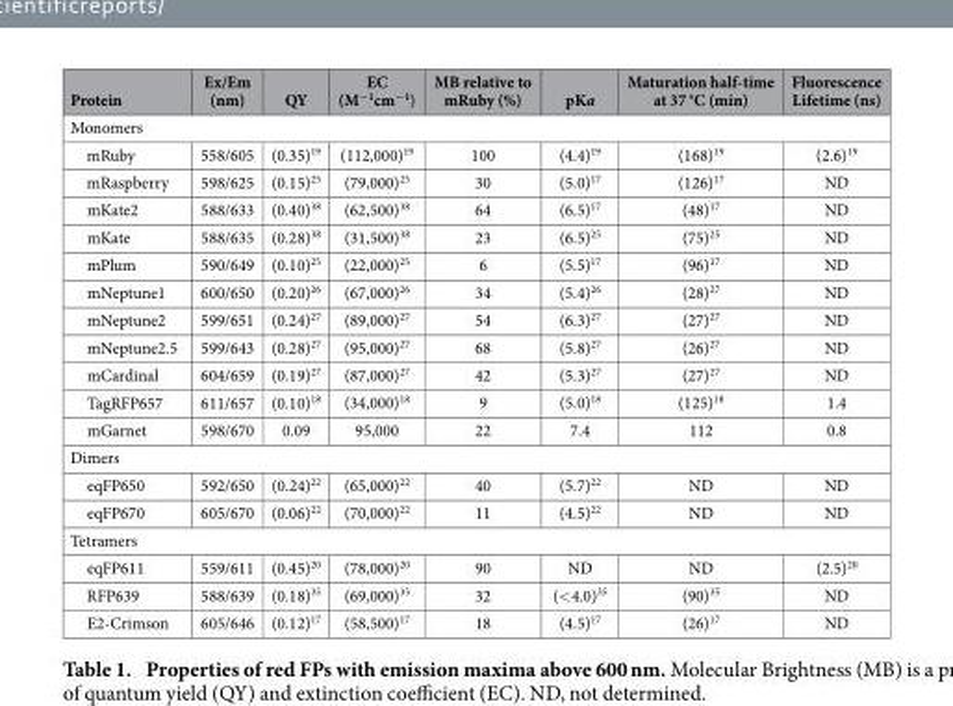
<table><thead><tr><td>Protein</td><td>Ex/Em (nm)</td><td>QY</td><td>EC (M<sup>−1</sup>cm<sup>−1</sup>)</td><td>MB relative to mRuby (%)</td><td>pKa</td><td>Maturation half-time at 37 °C (min)</td><td>Fluorescence Lifetime (ns)</td></tr></thead><tbody><tr><td colspan="8">Monomers</td></tr><tr><td>mRuby</td><td>558/605</td><td>(0.35)<sup>19</sup></td><td>(112,000)<sup>19</sup></td><td>100</td><td>(4.4)<sup>19</sup></td><td>(168)<sup>19</sup></td><td>(2.6)<sup>19</sup></td></tr><tr><td>mRaspberry</td><td>598/625</td><td>(0.15)<sup>25</sup></td><td>(79,000)<sup>25</sup></td><td>30</td><td>(5.0)<sup>17</sup></td><td>(126)<sup>17</sup></td><td>ND</td></tr><tr><td>mKate2</td><td>588/633</td><td>(0.40)<sup>38</sup></td><td>(62,500)<sup>38</sup></td><td>64</td><td>(6.5)<sup>17</sup></td><td>(48)<sup>17</sup></td><td>ND</td></tr><tr><td>mKate</td><td>588/635</td><td>(0.28)<sup>38</sup></td><td>(31,500)<sup>38</sup></td><td>23</td><td>(6.5)<sup>25</sup></td><td>(75)<sup>25</sup></td><td>ND</td></tr><tr><td>mPlum</td><td>590/649</td><td>(0.10)<sup>25</sup></td><td>(22,000)<sup>25</sup></td><td>6</td><td>(5.5)<sup>17</sup></td><td>(96)<sup>17</sup></td><td>ND</td></tr><tr><td>mNeptune1</td><td>600/650</td><td>(0.20)<sup>26</sup></td><td>(67,000)<sup>26</sup></td><td>34</td><td>(5.4)<sup>26</sup></td><td>(28)<sup>27</sup></td><td>ND</td></tr><tr><td>mNeptune2</td><td>599/651</td><td>(0.24)<sup>27</sup></td><td>(89,000)<sup>27</sup></td><td>54</td><td>(6.3)<sup>27</sup></td><td>(27)<sup>27</sup></td><td>ND</td></tr><tr><td>mNeptune2.5</td><td>599/643</td><td>(0.28)<sup>27</sup></td><td>(95,000)<sup>27</sup></td><td>68</td><td>(5.8)<sup>27</sup></td><td>(26)<sup>27</sup></td><td>ND</td></tr><tr><td>mCardinal</td><td>604/659</td><td>(0.19)<sup>27</sup></td><td>(87,000)<sup>27</sup></td><td>42</td><td>(5.3)<sup>27</sup></td><td>(27)<sup>27</sup></td><td>ND</td></tr><tr><td>TagRFP657</td><td>611/657</td><td>(0.10)<sup>18</sup></td><td>(34,000)<sup>18</sup></td><td>9</td><td>(5.0)<sup>18</sup></td><td>(125)<sup>18</sup></td><td>1.4</td></tr><tr><td>mGarnet</td><td>598/670</td><td>0.09</td><td>95,000</td><td>22</td><td>7.4</td><td>112</td><td>0.8</td></tr><tr><td colspan="8">Dimers</td></tr><tr><td>eqFP650</td><td>592/650</td><td>(0.24)<sup>22</sup></td><td>(65,000)<sup>22</sup></td><td>40</td><td>(5.7)<sup>22</sup></td><td>ND</td><td>ND</td></tr><tr><td>eqFP670</td><td>605/670</td><td>(0.06)<sup>22</sup></td><td>(70,000)<sup>22</sup></td><td>11</td><td>(4.5)<sup>22</sup></td><td>ND</td><td>ND</td></tr><tr><td colspan="8">Tetramers</td></tr><tr><td>eqFP611</td><td>559/611</td><td>(0.45)<sup>20</sup></td><td>(78,000)<sup>20</sup></td><td>90</td><td>ND</td><td>ND</td><td>(2.5)<sup>20</sup></td></tr><tr><td>RFP639</td><td>588/639</td><td>(0.18)<sup>35</sup></td><td>(69,000)<sup>35</sup></td><td>32</td><td>(&lt;4.0)<sup>35</sup></td><td>(90)<sup>35</sup></td><td>ND</td></tr><tr><td>E2-Crimson</td><td>605/646</td><td>(0.12)<sup>17</sup></td><td>(58,500)<sup>17</sup></td><td>18</td><td>(4.5)<sup>17</sup></td><td>(26)<sup>17</sup></td><td>ND</td></tr></tbody></table>